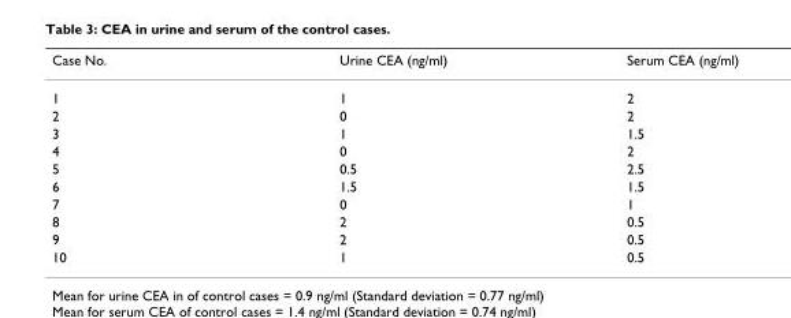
<table><thead><tr><td>Case No.</td><td>Urine CEA (ng/ml)</td><td>Serum CEA (ng/ml)</td></tr></thead><tbody><tr><td>1</td><td>1</td><td>2</td></tr><tr><td>2</td><td>0</td><td>2</td></tr><tr><td>3</td><td>1</td><td>1.5</td></tr><tr><td>4</td><td>0</td><td>2</td></tr><tr><td>5</td><td>0.5</td><td>2.5</td></tr><tr><td>6</td><td>1.5</td><td>1.5</td></tr><tr><td>7</td><td>0</td><td>1</td></tr><tr><td>8</td><td>2</td><td>0.5</td></tr><tr><td>9</td><td>2</td><td>0.5</td></tr><tr><td>10</td><td>1</td><td>0.5</td></tr></tbody></table>